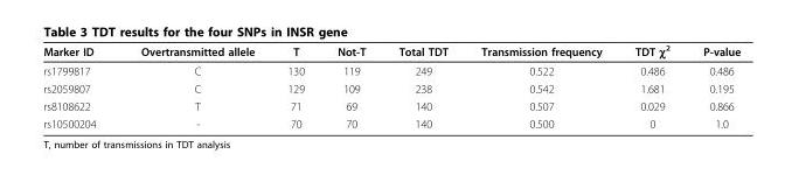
<table><thead><tr><td>Marker ID</td><td>Overtransmitted allele</td><td>T</td><td>Not-T</td><td>Total TDT</td><td>Transmission frequency</td><td>TDT χ<sup>2</sup></td><td>P-value</td></tr></thead><tbody><tr><td>rs1799817</td><td>C</td><td>130</td><td>119</td><td>249</td><td>0.522</td><td>0.486</td><td>0.486</td></tr><tr><td>rs2059807</td><td>C</td><td>129</td><td>109</td><td>238</td><td>0.542</td><td>1.681</td><td>0.195</td></tr><tr><td>rs8108622</td><td>T</td><td>71</td><td>69</td><td>140</td><td>0.507</td><td>0.029</td><td>0.866</td></tr><tr><td>rs10500204</td><td>-</td><td>70</td><td>70</td><td>140</td><td>0.500</td><td>0</td><td>1.0</td></tr></tbody></table>